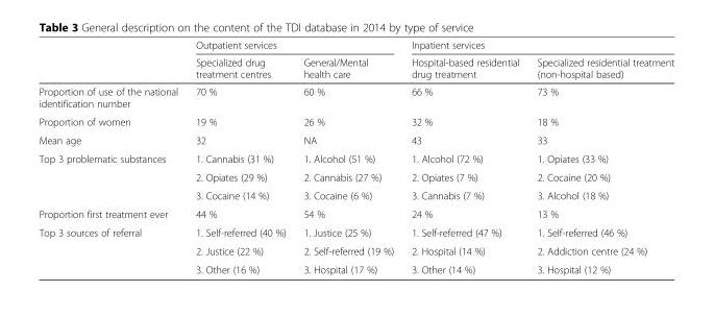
<table><thead><tr><td rowspan="2"></td><td colspan="2">Outpatient services</td><td colspan="2">Inpatient services</td></tr><tr><td>Specialized drug treatment centres</td><td>General/Mental health care</td><td>Hospital-based residential drug treatment</td><td>Specialized residential treatment (non-hospital based)</td></tr></thead><tbody><tr><td>Proportion of use of the national identification number</td><td>70 %</td><td>60 %</td><td>66 %</td><td>73 %</td></tr><tr><td>Proportion of women</td><td>19 %</td><td>26 %</td><td>32 %</td><td>18 %</td></tr><tr><td>Mean age</td><td>32</td><td>NA</td><td>43</td><td>33</td></tr><tr><td rowspan="3">Top 3 problematic substances</td><td>1. Cannabis (31 %)</td><td>1. Alcohol (51 %)</td><td>1. Alcohol (72 %)</td><td>1. Opiates (33 %)</td></tr><tr><td>2. Opiates (29 %)</td><td>2. Cannabis (27 %)</td><td>2. Opiates (7 %)</td><td>2. Cocaine (20 %)</td></tr><tr><td>3. Cocaine (14 %)</td><td>3. Cocaine (6 %)</td><td>3. Cannabis (7 %)</td><td>3. Alcohol (18 %)</td></tr><tr><td>Proportion first treatment ever</td><td>44 %</td><td>54 %</td><td>24 %</td><td>13 %</td></tr><tr><td rowspan="3">Top 3 sources of referral</td><td>1. Self-referred (40 %)</td><td>1. Justice (25 %)</td><td>1. Self-referred (47 %)</td><td>1. Self-referred (46 %)</td></tr><tr><td>2. Justice (22 %)</td><td>2. Self-referred (19 %)</td><td>2. Hospital (14 %)</td><td>2. Addiction centre (24 %)</td></tr><tr><td>3. Other (16 %)</td><td>3. Hospital (17 %)</td><td>3. Other (14 %)</td><td>3. Hospital (12 %)</td></tr></tbody></table>